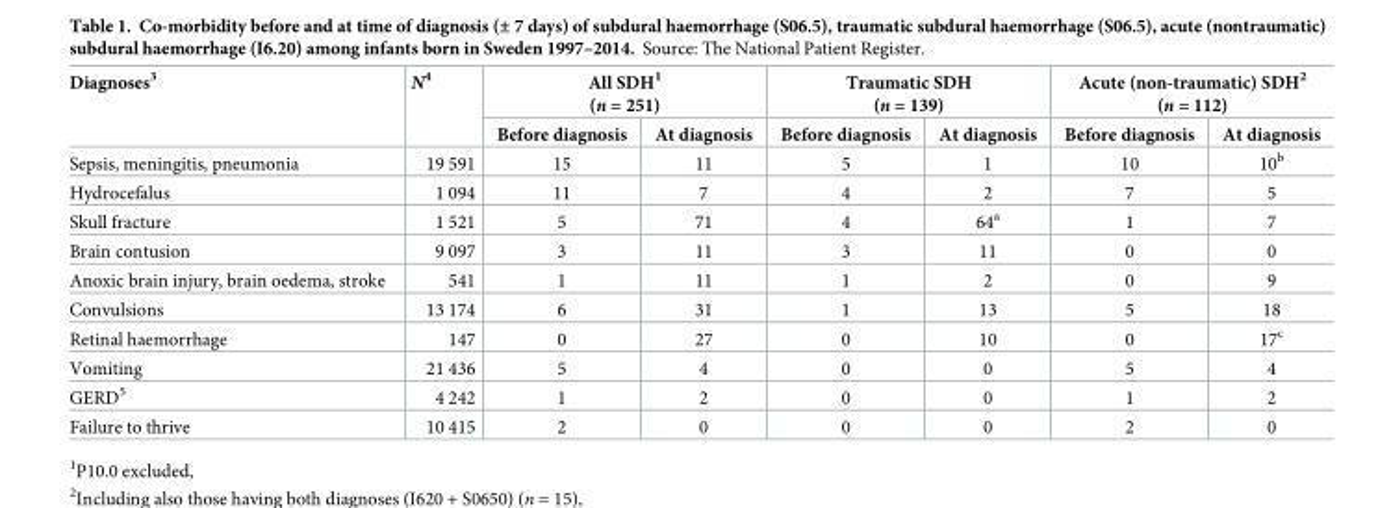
<table><thead><tr><td rowspan="2">Diagnoses<sup>3</sup></td><td rowspan="2">N<sup>4</sup></td><td colspan="2">All SDH<sup>1</sup> (n = 251)</td><td colspan="2">Traumatic SDH (n = 139)</td><td colspan="2">Acute (non-traumatic) SDH<sup>2</sup> (n = 112)</td></tr><tr><td>Before diagnosis</td><td>At diagnosis</td><td>Before diagnosis</td><td>At diagnosis</td><td>Before diagnosis</td><td>At diagnosis</td></tr></thead><tbody><tr><td>Sepsis, meningitis, pneumonia</td><td>19 591</td><td>15</td><td>11</td><td>5</td><td>1</td><td>10</td><td>10<sup>b</sup></td></tr><tr><td>Hydrocefalus</td><td>1 094</td><td>11</td><td>7</td><td>4</td><td>2</td><td>7</td><td>5</td></tr><tr><td>Skull fracture</td><td>1 521</td><td>5</td><td>71</td><td>4</td><td>64<sup>a</sup></td><td>1</td><td>7</td></tr><tr><td>Brain contusion</td><td>9 097</td><td>3</td><td>11</td><td>3</td><td>11</td><td>0</td><td>0</td></tr><tr><td>Anoxic brain injury, brain oedema, stroke</td><td>541</td><td>1</td><td>11</td><td>1</td><td>2</td><td>0</td><td>9</td></tr><tr><td>Convulsions</td><td>13 174</td><td>6</td><td>31</td><td>1</td><td>13</td><td>5</td><td>18</td></tr><tr><td>Retinal haemorrhage</td><td>147</td><td>0</td><td>27</td><td>0</td><td>10</td><td>0</td><td>17<sup>c</sup></td></tr><tr><td>Vomiting</td><td>21 436</td><td>5</td><td>4</td><td>0</td><td>0</td><td>5</td><td>4</td></tr><tr><td>GERD<sup>5</sup></td><td>4 242</td><td>1</td><td>2</td><td>0</td><td>0</td><td>1</td><td>2</td></tr><tr><td>Failure to thrive</td><td>10 415</td><td>2</td><td>0</td><td>0</td><td>0</td><td>2</td><td>0</td></tr></tbody></table>